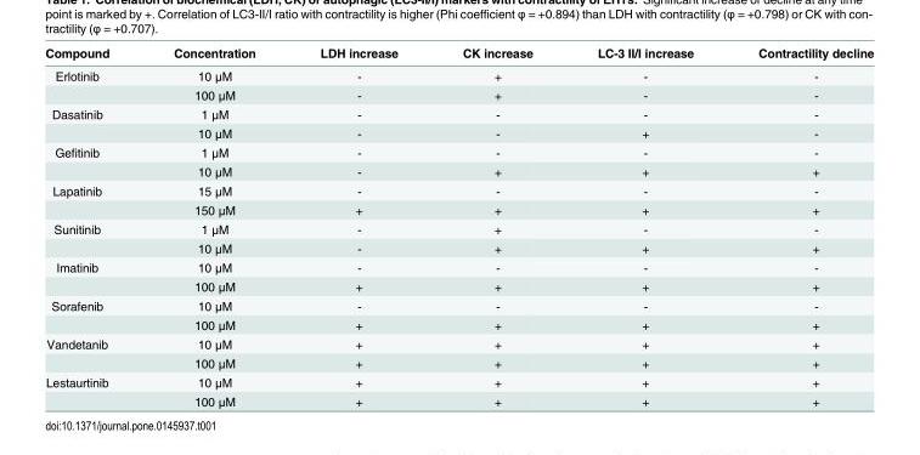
<table><thead><tr><td>Compound</td><td>Concentration</td><td>LDH increase</td><td>CK increase</td><td>LC-3 II/I increase</td><td>Contractility decline</td></tr></thead><tbody><tr><td rowspan="2">Erlotinib</td><td>10 μM</td><td>-</td><td>+</td><td>-</td><td>-</td></tr><tr><td>100 μM</td><td>-</td><td>+</td><td>-</td><td>-</td></tr><tr><td rowspan="2">Dasatinib</td><td>1 μM</td><td>-</td><td>-</td><td>-</td><td>-</td></tr><tr><td>10 μM</td><td>-</td><td>-</td><td>+</td><td>-</td></tr><tr><td rowspan="2">Gefitinib</td><td>1 μM</td><td>-</td><td>-</td><td>-</td><td>-</td></tr><tr><td>10 μM</td><td>-</td><td>+</td><td>+</td><td>+</td></tr><tr><td rowspan="2">Lapatinib</td><td>15 μM</td><td>-</td><td>-</td><td>-</td><td>-</td></tr><tr><td>150 μM</td><td>+</td><td>+</td><td>+</td><td>+</td></tr><tr><td rowspan="2">Sunitinib</td><td>1 μM</td><td>-</td><td>+</td><td>-</td><td>-</td></tr><tr><td>10 μM</td><td>-</td><td>+</td><td>+</td><td>+</td></tr><tr><td rowspan="2">Imatinib</td><td>10 μM</td><td>-</td><td>-</td><td>-</td><td>-</td></tr><tr><td>100 μM</td><td>+</td><td>+</td><td>+</td><td>+</td></tr><tr><td rowspan="2">Sorafenib</td><td>10 μM</td><td>-</td><td>-</td><td>-</td><td>-</td></tr><tr><td>100 μM</td><td>+</td><td>+</td><td>+</td><td>+</td></tr><tr><td rowspan="2">Vandetanib</td><td>10 μM</td><td>+</td><td>+</td><td>+</td><td>+</td></tr><tr><td>100 μM</td><td>+</td><td>+</td><td>+</td><td>+</td></tr><tr><td rowspan="2">Lestaurtinib</td><td>10 μM</td><td>+</td><td>+</td><td>+</td><td>+</td></tr><tr><td>100 μM</td><td>+</td><td>+</td><td>+</td><td>+</td></tr></tbody></table>